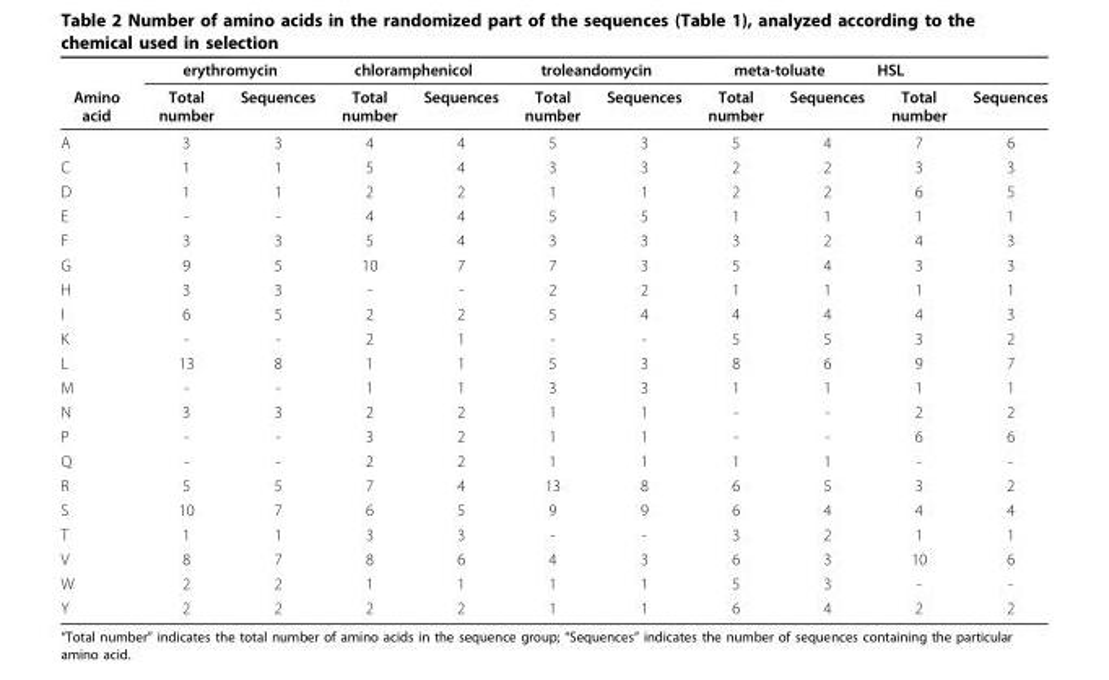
<table><thead><tr><td rowspan="2">Amino acid</td><td colspan="2">erythromycin</td><td colspan="2">chloramphenicol</td><td colspan="2">troleandomycin</td><td colspan="2">meta-toluate</td><td colspan="2">HSL</td></tr><tr><td>Total number</td><td>Sequences</td><td>Total number</td><td>Sequences</td><td>Total number</td><td>Sequences</td><td>Total number</td><td>Sequences</td><td>Total number</td><td>Sequences</td></tr></thead><tbody><tr><td>A</td><td>3</td><td>3</td><td>4</td><td>4</td><td>5</td><td>3</td><td>5</td><td>4</td><td>7</td><td>6</td></tr><tr><td>C</td><td>1</td><td>1</td><td>5</td><td>4</td><td>3</td><td>3</td><td>2</td><td>2</td><td>3</td><td>3</td></tr><tr><td>D</td><td>1</td><td>1</td><td>2</td><td>2</td><td>1</td><td>1</td><td>2</td><td>2</td><td>6</td><td>5</td></tr><tr><td>E</td><td>-</td><td>-</td><td>4</td><td>4</td><td>5</td><td>5</td><td>1</td><td>1</td><td>1</td><td>1</td></tr><tr><td>F</td><td>3</td><td>3</td><td>5</td><td>4</td><td>3</td><td>3</td><td>3</td><td>2</td><td>4</td><td>3</td></tr><tr><td>G</td><td>9</td><td>5</td><td>10</td><td>7</td><td>7</td><td>3</td><td>5</td><td>4</td><td>3</td><td>3</td></tr><tr><td>H</td><td>3</td><td>3</td><td>-</td><td>-</td><td>2</td><td>2</td><td>1</td><td>1</td><td>1</td><td>1</td></tr><tr><td>I</td><td>6</td><td>5</td><td>2</td><td>2</td><td>5</td><td>4</td><td>4</td><td>4</td><td>4</td><td>3</td></tr><tr><td>K</td><td>-</td><td>-</td><td>2</td><td>1</td><td>-</td><td>-</td><td>5</td><td>5</td><td>3</td><td>2</td></tr><tr><td>L</td><td>13</td><td>8</td><td>1</td><td>1</td><td>5</td><td>3</td><td>8</td><td>6</td><td>9</td><td>7</td></tr><tr><td>M</td><td>-</td><td>-</td><td>1</td><td>1</td><td>3</td><td>3</td><td>1</td><td>1</td><td>1</td><td>1</td></tr><tr><td>N</td><td>3</td><td>3</td><td>2</td><td>2</td><td>1</td><td>1</td><td>-</td><td>-</td><td>2</td><td>2</td></tr><tr><td>P</td><td>-</td><td>-</td><td>3</td><td>2</td><td>1</td><td>1</td><td>-</td><td>-</td><td>6</td><td>6</td></tr><tr><td>Q</td><td>-</td><td>-</td><td>2</td><td>2</td><td>1</td><td>1</td><td>1</td><td>1</td><td>-</td><td>-</td></tr><tr><td>R</td><td>5</td><td>5</td><td>7</td><td>4</td><td>13</td><td>8</td><td>6</td><td>5</td><td>3</td><td>2</td></tr><tr><td>S</td><td>10</td><td>7</td><td>6</td><td>5</td><td>9</td><td>9</td><td>6</td><td>4</td><td>4</td><td>4</td></tr><tr><td>T</td><td>1</td><td>1</td><td>3</td><td>3</td><td>-</td><td>-</td><td>3</td><td>2</td><td>1</td><td>1</td></tr><tr><td>V</td><td>8</td><td>7</td><td>8</td><td>6</td><td>4</td><td>3</td><td>6</td><td>3</td><td>10</td><td>6</td></tr><tr><td>W</td><td>2</td><td>2</td><td>1</td><td>1</td><td>1</td><td>1</td><td>5</td><td>3</td><td>-</td><td>-</td></tr><tr><td>Y</td><td>2</td><td>2</td><td>2</td><td>2</td><td>1</td><td>1</td><td>6</td><td>4</td><td>2</td><td>2</td></tr></tbody></table>